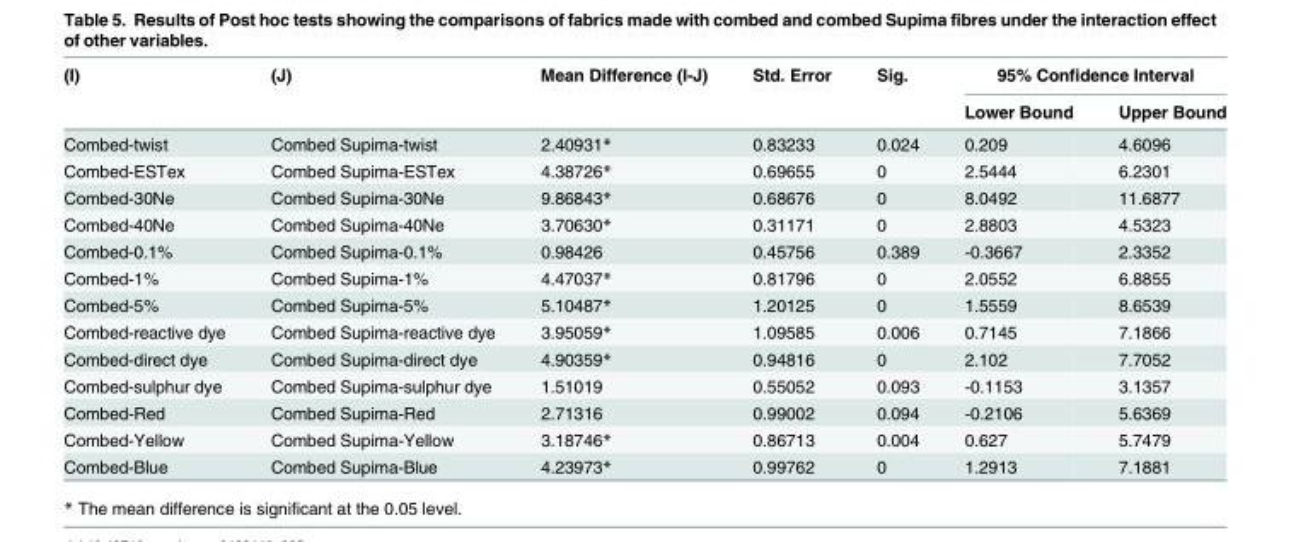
<table><thead><tr><td rowspan="2">(I)</td><td rowspan="2">(J)</td><td rowspan="2">Mean Difference (I-J)</td><td rowspan="2">Std. Error</td><td rowspan="2">Sig.</td><td colspan="2">95% Confidence Interval</td></tr><tr><td>Lower Bound</td><td>Upper Bound</td></tr></thead><tbody><tr><td>Combed-twist</td><td>Combed Supima-twist</td><td>2.40931*</td><td>0.83233</td><td>0.024</td><td>0.209</td><td>4.6096</td></tr><tr><td>Combed-ESTex</td><td>Combed Supima-ESTex</td><td>4.38726*</td><td>0.69655</td><td>0</td><td>2.5444</td><td>6.2301</td></tr><tr><td>Combed-30Ne</td><td>Combed Supima-30Ne</td><td>9.86843*</td><td>0.68676</td><td>0</td><td>8.0492</td><td>11.6877</td></tr><tr><td>Combed-40Ne</td><td>Combed Supima-40Ne</td><td>3.70630*</td><td>0.31171</td><td>0</td><td>2.8803</td><td>4.5323</td></tr><tr><td>Combed-0.1%</td><td>Combed Supima-0.1%</td><td>0.98426</td><td>0.45756</td><td>0.389</td><td>-0.3667</td><td>2.3352</td></tr><tr><td>Combed-1%</td><td>Combed Supima-1%</td><td>4.47037*</td><td>0.81796</td><td>0</td><td>2.0552</td><td>6.8855</td></tr><tr><td>Combed-5%</td><td>Combed Supima-5%</td><td>5.10487*</td><td>1.20125</td><td>0</td><td>1.5559</td><td>8.6539</td></tr><tr><td>Combed-reactive dye</td><td>Combed Supima-reactive dye</td><td>3.95059*</td><td>1.09585</td><td>0.006</td><td>0.7145</td><td>7.1866</td></tr><tr><td>Combed-direct dye</td><td>Combed Supima-direct dye</td><td>4.90359*</td><td>0.94816</td><td>0</td><td>2.102</td><td>7.7052</td></tr><tr><td>Combed-sulphur dye</td><td>Combed Supima-sulphur dye</td><td>1.51019</td><td>0.55052</td><td>0.093</td><td>-0.1153</td><td>3.1357</td></tr><tr><td>Combed-Red</td><td>Combed Supima-Red</td><td>2.71316</td><td>0.99002</td><td>0.094</td><td>-0.2106</td><td>5.6369</td></tr><tr><td>Combed-Yellow</td><td>Combed Supima-Yellow</td><td>3.18746*</td><td>0.86713</td><td>0.004</td><td>0.627</td><td>5.7479</td></tr><tr><td>Combed-Blue</td><td>Combed Supima-Blue</td><td>4.23973*</td><td>0.99762</td><td>0</td><td>1.2913</td><td>7.1881</td></tr></tbody></table>